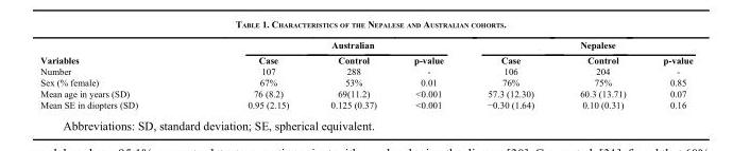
<table><thead><tr><td rowspan="2">Variables</td><td colspan="3">Australian</td><td colspan="3">Nepalese</td></tr><tr><td>Case</td><td>Control</td><td>p-value</td><td>Case</td><td>Control</td><td>p-value</td></tr></thead><tbody><tr><td>Number</td><td>107</td><td>288</td><td>-</td><td>106</td><td>204</td><td>-</td></tr><tr><td>Sex (% female)</td><td>67%</td><td>53%</td><td>0.01</td><td>76%</td><td>75%</td><td>0.85</td></tr><tr><td>Mean age in years (SD)</td><td>76 (8.2)</td><td>69(11.2)</td><td>&lt;0.001</td><td>57.3 (12.30)</td><td>60.3 (13.71)</td><td>0.07</td></tr><tr><td>Mean SE in diopters (SD)</td><td>0.95 (2.15)</td><td>0.125 (0.37)</td><td>&lt;0.001</td><td>−0.30 (1.64)</td><td>0.10 (0.31)</td><td>0.16</td></tr></tbody></table>